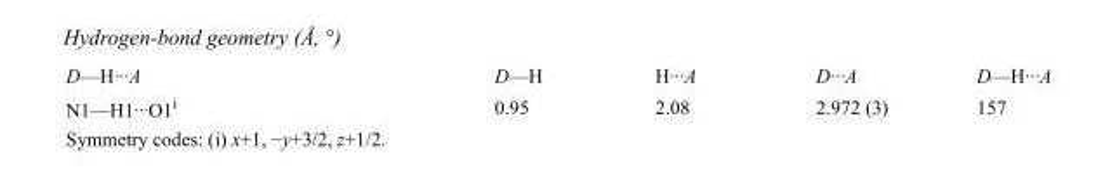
<table><tbody><tr><td>D—H···A</td><td>D—H</td><td>H···A</td><td>D···A</td><td>D—H···A</td></tr><tr><td>N1—H1···O1<sup>i</sup></td><td>0.95</td><td>2.08</td><td>2.972 (3)</td><td>157</td></tr></tbody></table>